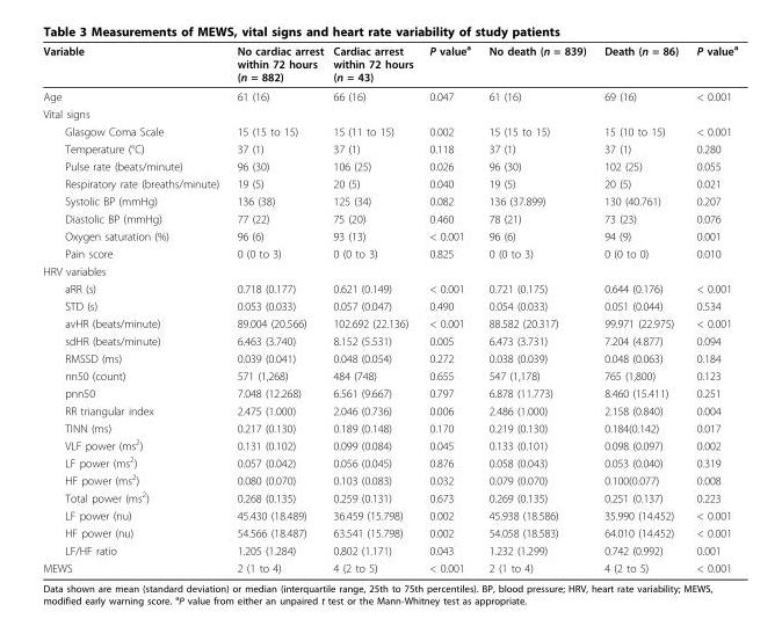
<table><thead><tr><td>Variable</td><td>No cardiac arrest within 72 hours (n = 882)</td><td>Cardiac arrest within 72 hours (n = 43)</td><td>P value<sup>a</sup></td><td>No death (n = 839)</td><td>Death (n = 86)</td><td>P value<sup>a</sup></td></tr></thead><tbody><tr><td>Age</td><td>61 (16)</td><td>66 (16)</td><td>0.047</td><td>61 (16)</td><td>69 (16)</td><td>&lt; 0.001</td></tr><tr><td colspan="7">Vital signs</td></tr><tr><td>Glasgow Coma Scale</td><td>15 (15 to 15)</td><td>15 (11 to 15)</td><td>0.002</td><td>15 (15 to 15)</td><td>15 (10 to 15)</td><td>&lt; 0.001</td></tr><tr><td>Temperature (°C)</td><td>37 (1)</td><td>37 (1)</td><td>0.118</td><td>37 (1)</td><td>37 (1)</td><td>0.280</td></tr><tr><td>Pulse rate (beats/minute)</td><td>96 (30)</td><td>106 (25)</td><td>0.026</td><td>96 (30)</td><td>102 (25)</td><td>0.055</td></tr><tr><td>Respiratory rate (breaths/minute)</td><td>19 (5)</td><td>20 (5)</td><td>0.040</td><td>19 (5)</td><td>20 (5)</td><td>0.021</td></tr><tr><td>Systolic BP (mmHg)</td><td>136 (38)</td><td>125 (34)</td><td>0.082</td><td>136 (37.899)</td><td>130 (40.761)</td><td>0.207</td></tr><tr><td>Diastolic BP (mmHg)</td><td>77 (22)</td><td>75 (20)</td><td>0.460</td><td>78 (21)</td><td>73 (23)</td><td>0.076</td></tr><tr><td>Oxygen saturation (%)</td><td>96 (6)</td><td>93 (13)</td><td>&lt; 0.001</td><td>96 (6)</td><td>94 (9)</td><td>0.001</td></tr><tr><td>Pain score</td><td>0 (0 to 3)</td><td>0 (0 to 3)</td><td>0.825</td><td>0 (0 to 3)</td><td>0 (0 to 0)</td><td>0.010</td></tr><tr><td colspan="7">HRV variables</td></tr><tr><td>aRR (s)</td><td>0.718 (0.177)</td><td>0.621 (0.149)</td><td>&lt; 0.001</td><td>0.721 (0.175)</td><td>0.644 (0.176)</td><td>&lt; 0.001</td></tr><tr><td>STD (s)</td><td>0.053 (0.033)</td><td>0.057 (0.047)</td><td>0.490</td><td>0.054 (0.033)</td><td>0.051 (0.044)</td><td>0.534</td></tr><tr><td>avHR (beats/minute)</td><td>89.004 (20.566)</td><td>102.692 (22.136)</td><td>&lt; 0.001</td><td>88.582 (20.317)</td><td>99.971 (22.975)</td><td>&lt; 0.001</td></tr><tr><td>sdHR (beats/minute)</td><td>6.463 (3.740)</td><td>8.152 (5.531)</td><td>0.005</td><td>6.473 (3.731)</td><td>7.204 (4.877)</td><td>0.094</td></tr><tr><td>RMSSD (ms)</td><td>0.039 (0.041)</td><td>0.048 (0.054)</td><td>0.272</td><td>0.038 (0.039)</td><td>0.048 (0.063)</td><td>0.184</td></tr><tr><td>nn50 (count)</td><td>571 (1,268)</td><td>484 (748)</td><td>0.655</td><td>547 (1,178)</td><td>765 (1,800)</td><td>0.123</td></tr><tr><td>pnn50</td><td>7.048 (12.268)</td><td>6.561 (9.667)</td><td>0.797</td><td>6.878 (11.773)</td><td>8.460 (15.411)</td><td>0.251</td></tr><tr><td>RR triangular index</td><td>2.475 (1.000)</td><td>2.046 (0.736)</td><td>0.006</td><td>2.486 (1.000)</td><td>2.158 (0.840)</td><td>0.004</td></tr><tr><td>TINN (ms)</td><td>0.217 (0.130)</td><td>0.189 (0.148)</td><td>0.170</td><td>0.219 (0.130)</td><td>0.184(0.142)</td><td>0.017</td></tr><tr><td>VLF power (ms<sup>2</sup>)</td><td>0.131 (0.102)</td><td>0.099 (0.084)</td><td>0.045</td><td>0.133 (0.101)</td><td>0.098 (0.097)</td><td>0.002</td></tr><tr><td>LF power (ms<sup>2</sup>)</td><td>0.057 (0.042)</td><td>0.056 (0.045)</td><td>0.876</td><td>0.058 (0.043)</td><td>0.053 (0.040)</td><td>0.319</td></tr><tr><td>HF power (ms<sup>2</sup>)</td><td>0.080 (0.070)</td><td>0.103 (0.083)</td><td>0.032</td><td>0.079 (0.070)</td><td>0.100(0.077)</td><td>0.008</td></tr><tr><td>Total power (ms<sup>2</sup>)</td><td>0.268 (0.135)</td><td>0.259 (0.131)</td><td>0.673</td><td>0.269 (0.135)</td><td>0.251 (0.137)</td><td>0.223</td></tr><tr><td>LF power (nu)</td><td>45.430 (18.489)</td><td>36.459 (15.798)</td><td>0.002</td><td>45.938 (18.586)</td><td>35.990 (14.452)</td><td>&lt; 0.001</td></tr><tr><td>HF power (nu)</td><td>54.566 (18.487)</td><td>63.541 (15.798)</td><td>0.002</td><td>54.058 (18.583)</td><td>64.010 (14.452)</td><td>&lt; 0.001</td></tr><tr><td>LF/HF ratio</td><td>1.205 (1.284)</td><td>0.802 (1.171)</td><td>0.043</td><td>1.232 (1.299)</td><td>0.742 (0.992)</td><td>0.001</td></tr><tr><td>MEWS</td><td>2 (1 to 4)</td><td>4 (2 to 5)</td><td>&lt; 0.001</td><td>2 (1 to 4)</td><td>4 (2 to 5)</td><td>&lt; 0.001</td></tr></tbody></table>